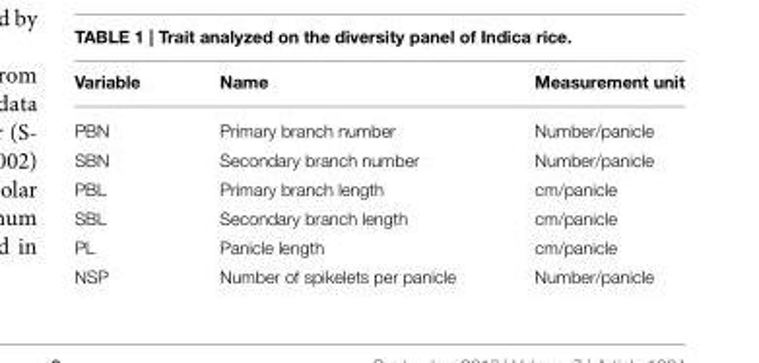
<table><thead><tr><td>Variable</td><td>Name</td><td>Measurement unit</td></tr></thead><tbody><tr><td>PBN</td><td>Primary branch number</td><td>Number/panicle</td></tr><tr><td>SBN</td><td>Secondary branch number</td><td>Number/panicle</td></tr><tr><td>PBL</td><td>Primary branch length</td><td>cm/panicle</td></tr><tr><td>SBL</td><td>Secondary branch length</td><td>cm/panicle</td></tr><tr><td>PL</td><td>Panicle length</td><td>cm/panicle</td></tr><tr><td>NSP</td><td>Number of spikelets per panicle</td><td>Number/panicle</td></tr></tbody></table>